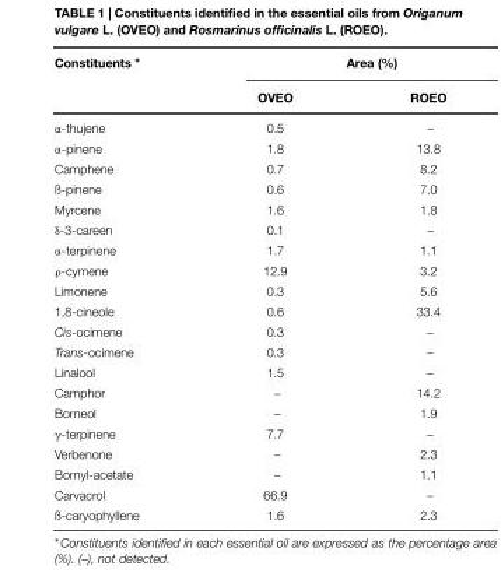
<table><thead><tr><td rowspan="2">Constituents ∗</td><td colspan="2">Area (%)</td></tr><tr><td>OVEO</td><td>ROEO</td></tr></thead><tbody><tr><td>α-thujene</td><td>0.5</td><td>–</td></tr><tr><td>α-pinene</td><td>1.8</td><td>13.8</td></tr><tr><td>Camphene</td><td>0.7</td><td>8.2</td></tr><tr><td>ß-pinene</td><td>0.6</td><td>7.0</td></tr><tr><td>Myrcene</td><td>1.6</td><td>1.8</td></tr><tr><td>δ-3-careen</td><td>0.1</td><td>–</td></tr><tr><td>α-terpinene</td><td>1.7</td><td>1.1</td></tr><tr><td>ρ-cymene</td><td>12.9</td><td>3.2</td></tr><tr><td>Limonene</td><td>0.3</td><td>5.6</td></tr><tr><td>1,8-cineole</td><td>0.6</td><td>33.4</td></tr><tr><td>Cis-ocimene</td><td>0.3</td><td>–</td></tr><tr><td>Trans-ocimene</td><td>0.3</td><td>–</td></tr><tr><td>Linalool</td><td>1.5</td><td>–</td></tr><tr><td>Camphor</td><td>–</td><td>14.2</td></tr><tr><td>Borneol</td><td>–</td><td>1.9</td></tr><tr><td>γ-terpinene</td><td>7.7</td><td>–</td></tr><tr><td>Verbenone</td><td>–</td><td>2.3</td></tr><tr><td>Bornyl-acetate</td><td>–</td><td>1.1</td></tr><tr><td>Carvacrol</td><td>66.9</td><td>–</td></tr><tr><td>ß-caryophyllene</td><td>1.6</td><td>2.3</td></tr></tbody></table>